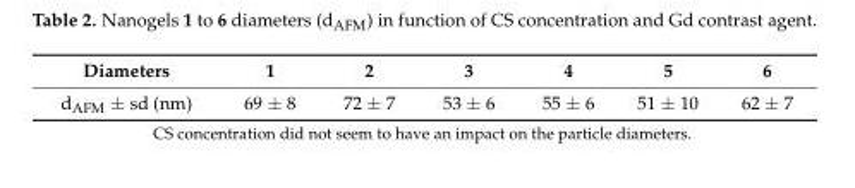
<table><thead><tr><td>Diameters</td><td>1</td><td>2</td><td>3</td><td>4</td><td>5</td><td>6</td></tr></thead><tbody><tr><td>d<sub>AFM</sub> ± sd (nm)</td><td>69 ± 8</td><td>72 ± 7</td><td>53 ± 6</td><td>55 ± 6</td><td>51 ± 10</td><td>62 ± 7</td></tr></tbody></table>